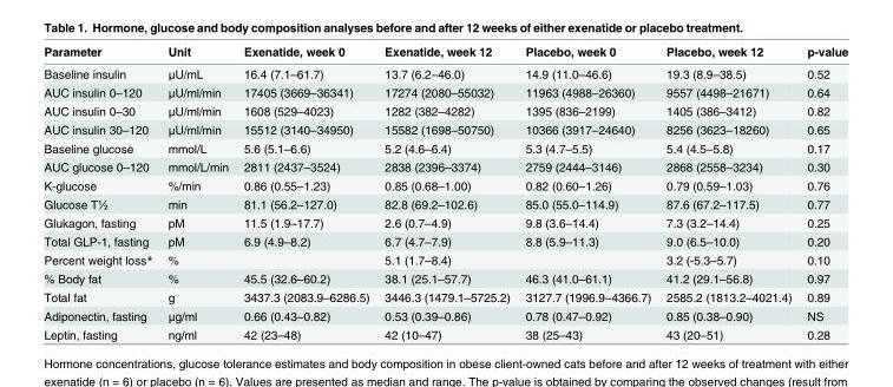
<table><thead><tr><td>Parameter</td><td>Unit</td><td>Exenatide, week 0</td><td>Exenatide, week 12</td><td>Placebo, week 0</td><td>Placebo, week 12</td><td>p-value</td></tr></thead><tbody><tr><td>Baseline insulin</td><td>μU/mL</td><td>16.4 (7.1–61.7)</td><td>13.7 (6.2–46.0)</td><td>14.9 (11.0–46.6)</td><td>19.3 (8.9–38.5)</td><td>0.52</td></tr><tr><td>AUC insulin 0–120</td><td>μU/ml/min</td><td>17405 (3669–36341)</td><td>17274 (2080–55032)</td><td>11963 (4988–26360)</td><td>9557 (4498–21671)</td><td>0.64</td></tr><tr><td>AUC insulin 0–30</td><td>μU/ml/min</td><td>1608 (529–4023)</td><td>1282 (382–4282)</td><td>1395 (836–2199)</td><td>1405 (386–3412)</td><td>0.82</td></tr><tr><td>AUC insulin 30–120</td><td>μU/ml/min</td><td>15512 (3140–34950)</td><td>15582 (1698–50750)</td><td>10366 (3917–24640)</td><td>8256 (3623–18260)</td><td>0.65</td></tr><tr><td>Baseline glucose</td><td>mmol/L</td><td>5.6 (5.1–6.6)</td><td>5.2 (4.6–6.4)</td><td>5.3 (4.7–5.5)</td><td>5.4 (4.5–5.8)</td><td>0.17</td></tr><tr><td>AUC glucose 0–120</td><td>mmol/L/min</td><td>2811 (2437–3524)</td><td>2838 (2396–3374)</td><td>2759 (2444–3146)</td><td>2868 (2558–3234)</td><td>0.30</td></tr><tr><td>K-glucose</td><td>%/min</td><td>0.86 (0.55–1.23)</td><td>0.85 (0.68–1.00)</td><td>0.82 (0.60–1.26)</td><td>0.79 (0.59–1.03)</td><td>0.76</td></tr><tr><td>Glucose T½</td><td>min</td><td>81.1 (56.2–127.0)</td><td>82.8 (69.2–102.6)</td><td>85.0 (55.0–114.9)</td><td>87.6 (67.2–117.5)</td><td>0.77</td></tr><tr><td>Glukagon, fasting</td><td>pM</td><td>11.5 (1.9–17.7)</td><td>2.6 (0.7–4.9)</td><td>9.8 (3.6–14.4)</td><td>7.3 (3.2–14.4)</td><td>0.25</td></tr><tr><td>Total GLP-1, fasting</td><td>pM</td><td>6.9 (4.9–8.2)</td><td>6.7 (4.7–7.9)</td><td>8.8 (5.9–11.3)</td><td>9.0 (6.5–10.0)</td><td>0.20</td></tr><tr><td>Percent weight loss*</td><td>%</td><td></td><td>5.1 (1.7–8.4)</td><td></td><td>3.2 (-5.3–5.7)</td><td>0.10</td></tr><tr><td>% Body fat</td><td>%</td><td>45.5 (32.6–60.2)</td><td>38.1 (25.1–57.7)</td><td>46.3 (41.0–61.1)</td><td>41.2 (29.1–56.8)</td><td>0.97</td></tr><tr><td>Total fat</td><td>g</td><td>3437.3 (2083.9–6286.5)</td><td>3446.3 (1479.1–5725.2)</td><td>3127.7 (1996.9–4366.7)</td><td>2585.2 (1813.2–4021.4)</td><td>0.89</td></tr><tr><td>Adiponectin, fasting</td><td>μg/ml</td><td>0.66 (0.43–0.82)</td><td>0.53 (0.39–0.86)</td><td>0.78 (0.47–0.92)</td><td>0.85 (0.38–0.90)</td><td>NS</td></tr><tr><td>Leptin, fasting</td><td>ng/ml</td><td>42 (23–48)</td><td>42 (10–47)</td><td>38 (25–43)</td><td>43 (20–51)</td><td>0.28</td></tr></tbody></table>